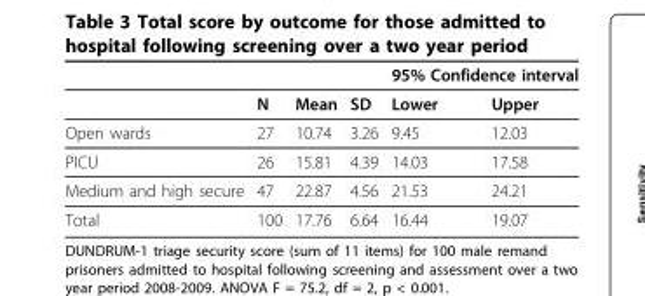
<table><thead><tr><td rowspan="2"></td><td rowspan="2">N</td><td rowspan="2">Mean</td><td rowspan="2">SD</td><td colspan="2">95% Confidence interval</td></tr><tr><td>Lower</td><td>Upper</td></tr></thead><tbody><tr><td>Open wards</td><td>27</td><td>10.74</td><td>3.26</td><td>9.45</td><td>12.03</td></tr><tr><td>PICU</td><td>26</td><td>15.81</td><td>4.39</td><td>14.03</td><td>17.58</td></tr><tr><td>Medium and high secure</td><td>47</td><td>22.87</td><td>4.56</td><td>21.53</td><td>24.21</td></tr><tr><td>Total</td><td>100</td><td>17.76</td><td>6.64</td><td>16.44</td><td>19.07</td></tr></tbody></table>